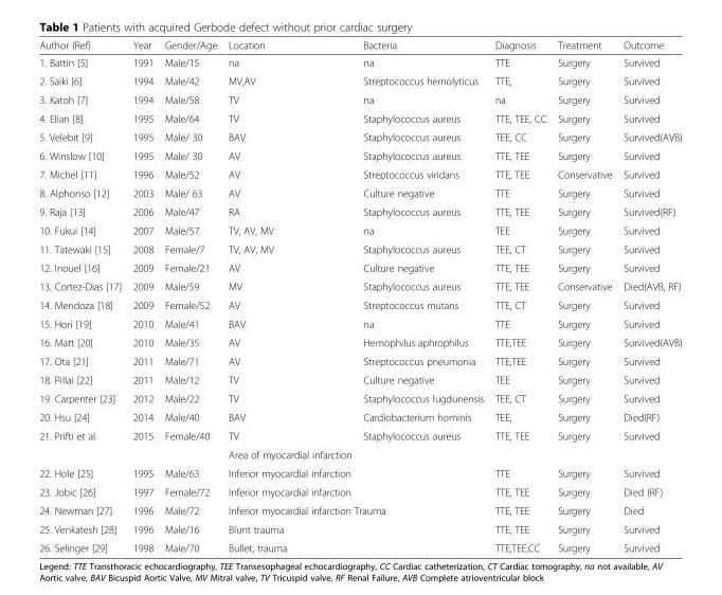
<table><thead><tr><td>Author (Ref)</td><td>Year</td><td>Gender/Age</td><td>Location</td><td>Bacteria</td><td>Diagnosis</td><td>Treatment</td><td>Outcome</td></tr></thead><tbody><tr><td>1. Battin [5]</td><td>1991</td><td>Male/15</td><td>na</td><td>na</td><td>TTE</td><td>Surgery</td><td>Survived</td></tr><tr><td>2. Saiki [6]</td><td>1994</td><td>Male/42</td><td>MV,AV</td><td>Streptococcus hemolyticus</td><td>TTE,</td><td>Surgery</td><td>Survived</td></tr><tr><td>3. Katoh [7]</td><td>1994</td><td>Male/58</td><td>TV</td><td>na</td><td>na</td><td>Surgery</td><td>Survived</td></tr><tr><td>4. Elian [8]</td><td>1995</td><td>Male/64</td><td>TV</td><td>Staphylococcus aureus</td><td>TTE, TEE, CC</td><td>Surgery</td><td>Survived</td></tr><tr><td>5. Velebit [9]</td><td>1995</td><td>Male/ 30</td><td>BAV</td><td>Staphylococcus aureus</td><td>TEE, CC</td><td>Surgery</td><td>Survived(AVB)</td></tr><tr><td>6. Winslow [10]</td><td>1995</td><td>Male/ 30</td><td>AV</td><td>Staphylococcus aureus</td><td>TTE, TEE</td><td>Surgery</td><td>Survived</td></tr><tr><td>7. Michel [11]</td><td>1996</td><td>Male/52</td><td>AV</td><td>Streptococcus viridans</td><td>TTE, TEE</td><td>Conservative</td><td>Survived</td></tr><tr><td>8. Alphonso [12]</td><td>2003</td><td>Male/ 63</td><td>AV</td><td>Culture negative</td><td>TTE</td><td>Surgery</td><td>Survived</td></tr><tr><td>9. Raja [13]</td><td>2006</td><td>Male/47</td><td>RA</td><td>Staphylococcus aureus</td><td>TTE, TEE</td><td>Surgery</td><td>Survived(RF)</td></tr><tr><td>10. Fukui [14]</td><td>2007</td><td>Male/57</td><td>TV, AV, MV</td><td>na</td><td>TEE</td><td>Surgery</td><td>Survived</td></tr><tr><td>11. Tatewaki [15]</td><td>2008</td><td>Female/7</td><td>TV, AV, MV</td><td>Staphylococcus aureus</td><td>TEE, CT</td><td>Surgery</td><td>Survived</td></tr><tr><td>12. Inouel [16]</td><td>2009</td><td>Female/21</td><td>AV</td><td>Culture negative</td><td>TTE, TEE</td><td>Surgery</td><td>Survived</td></tr><tr><td>13. Cortez-Dias [17]</td><td>2009</td><td>Male/59</td><td>MV</td><td>Staphylococcus aureus</td><td>TTE, TEE</td><td>Conservative</td><td>Died(AVB, RF)</td></tr><tr><td>14. Mendoza [18]</td><td>2009</td><td>Female/52</td><td>AV</td><td>Streptococcus mutans</td><td>TTE, CT</td><td>Surgery</td><td>Survived</td></tr><tr><td>15. Hori [19]</td><td>2010</td><td>Male/41</td><td>BAV</td><td>na</td><td>TTE</td><td>Surgery</td><td>Survived</td></tr><tr><td>16. Matt [20]</td><td>2010</td><td>Male/35</td><td>AV</td><td>Hemophilus aphrophilus</td><td>TTE,TEE</td><td>Surgery</td><td>Survived(AVB)</td></tr><tr><td>17. Ota [21]</td><td>2011</td><td>Male/71</td><td>AV</td><td>Streptococcus pneumonia</td><td>TTE,TEE</td><td>Surgery</td><td>Survived</td></tr><tr><td>18. Pillai [22]</td><td>2011</td><td>Male/12</td><td>TV</td><td>Culture negative</td><td>TEE</td><td>Surgery</td><td>Survived</td></tr><tr><td>19. Carpenter [23]</td><td>2012</td><td>Male/22</td><td>TV</td><td>Staphylococcus lugdunensis</td><td>TEE, CT</td><td>Surgery</td><td>Survived</td></tr><tr><td>20. Hsu [24]</td><td>2014</td><td>Male/40</td><td>BAV</td><td>Cardiobacterium hominis</td><td>TEE,</td><td>Surgery</td><td>Died(RF)</td></tr><tr><td>21. Prifti et al.</td><td>2015</td><td>Female/40</td><td>TV</td><td>Staphylococcus aureus</td><td>TTE, TEE</td><td>Surgery</td><td>Survived</td></tr><tr><td colspan="3"></td><td>Area of myocardial infarction</td><td colspan="4"></td></tr><tr><td>22. Hole [25]</td><td>1995</td><td>Male/63</td><td colspan="2">Inferior myocardial infarction</td><td>TTE</td><td>Surgery</td><td>Survived</td></tr><tr><td>23. Jobic [26]</td><td>1997</td><td>Female/72</td><td colspan="2">Inferior myocardial infarction</td><td>TTE, TEE</td><td>Surgery</td><td>Died (RF)</td></tr><tr><td>24. Newman [27]</td><td>1996</td><td>Male/72</td><td colspan="2">Inferior myocardial infarction Trauma</td><td>TTE, TEE</td><td>Surgery</td><td>Died</td></tr><tr><td>25. Venkatesh [28]</td><td>1996</td><td>Male/16</td><td colspan="2">Blunt trauma</td><td>TTE, TEE</td><td>Surgery</td><td>Survived</td></tr><tr><td>26. Selinger [29]</td><td>1998</td><td>Male/70</td><td colspan="2">Bullet, trauma</td><td>TTE,TEE,CC</td><td>Surgery</td><td>Survived</td></tr></tbody></table>